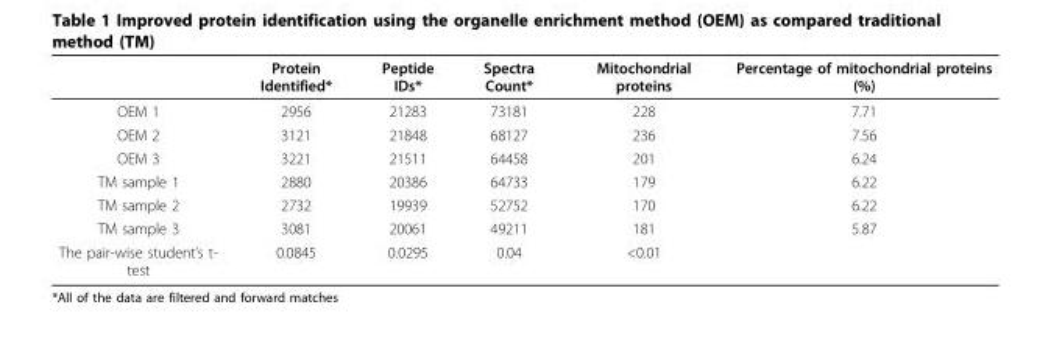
<table><thead><tr><td></td><td>Protein Identified*</td><td>Peptide IDs*</td><td>Spectra Count*</td><td>Mitochondrial proteins</td><td>Percentage of mitochondrial proteins (%)</td></tr></thead><tbody><tr><td>OEM 1</td><td>2956</td><td>21283</td><td>73181</td><td>228</td><td>7.71</td></tr><tr><td>OEM 2</td><td>3121</td><td>21848</td><td>68127</td><td>236</td><td>7.56</td></tr><tr><td>OEM 3</td><td>3221</td><td>21511</td><td>64458</td><td>201</td><td>6.24</td></tr><tr><td>TM sample 1</td><td>2880</td><td>20386</td><td>64733</td><td>179</td><td>6.22</td></tr><tr><td>TM sample 2</td><td>2732</td><td>19939</td><td>52752</td><td>170</td><td>6.22</td></tr><tr><td>TM sample 3</td><td>3081</td><td>20061</td><td>49211</td><td>181</td><td>5.87</td></tr><tr><td>The pair-wise student’s t- test</td><td>0.0845</td><td>0.0295</td><td>0.04</td><td>&lt;0.01</td><td></td></tr></tbody></table>